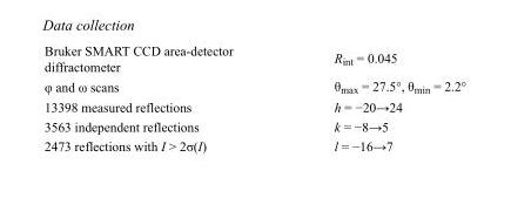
<table><tbody><tr><td>Bruker SMART CCD area-detector diffractometer</td><td>R<sub>int</sub> = 0.045</td></tr><tr><td>φ and ω scans</td><td>θ<sub>max</sub> = 27.5°, θ<sub>min</sub> = 2.2°</td></tr><tr><td>13398 measured reflections</td><td>h = −20→24</td></tr><tr><td>3563 independent reflections</td><td>k = −8→5</td></tr><tr><td>2473 reflections with I &gt; 2σ(I)</td><td>l = −16→7</td></tr></tbody></table>